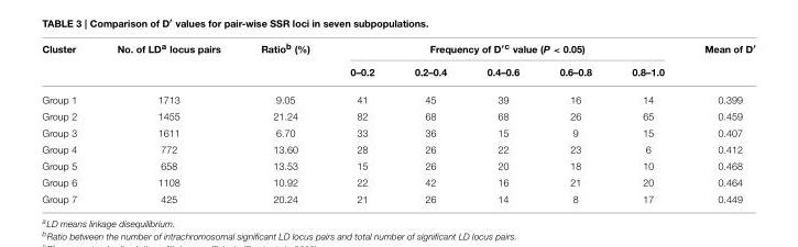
<table><thead><tr><td rowspan="2">Cluster</td><td rowspan="2">No. of LD<sup>a</sup> locus pairs</td><td rowspan="2">Ratio<sup>b</sup> (%)</td><td colspan="5">Frequency of D′<sup>c</sup> value (P &lt; 0.05)</td><td rowspan="2">Mean of D′</td></tr><tr><td>0–0.2</td><td>0.2–0.4</td><td>0.4–0.6</td><td>0.6–0.8</td><td>0.8–1.0</td></tr></thead><tbody><tr><td>Group 1</td><td>1713</td><td>9.05</td><td>41</td><td>45</td><td>39</td><td>16</td><td>14</td><td>0.399</td></tr><tr><td>Group 2</td><td>1455</td><td>21.24</td><td>82</td><td>68</td><td>68</td><td>26</td><td>65</td><td>0.459</td></tr><tr><td>Group 3</td><td>1611</td><td>6.70</td><td>33</td><td>36</td><td>15</td><td>9</td><td>15</td><td>0.407</td></tr><tr><td>Group 4</td><td>772</td><td>13.60</td><td>28</td><td>26</td><td>22</td><td>23</td><td>6</td><td>0.412</td></tr><tr><td>Group 5</td><td>658</td><td>13.53</td><td>15</td><td>26</td><td>20</td><td>18</td><td>10</td><td>0.468</td></tr><tr><td>Group 6</td><td>1108</td><td>10.92</td><td>22</td><td>42</td><td>16</td><td>21</td><td>20</td><td>0.464</td></tr><tr><td>Group 7</td><td>425</td><td>20.24</td><td>21</td><td>26</td><td>14</td><td>8</td><td>17</td><td>0.449</td></tr></tbody></table>